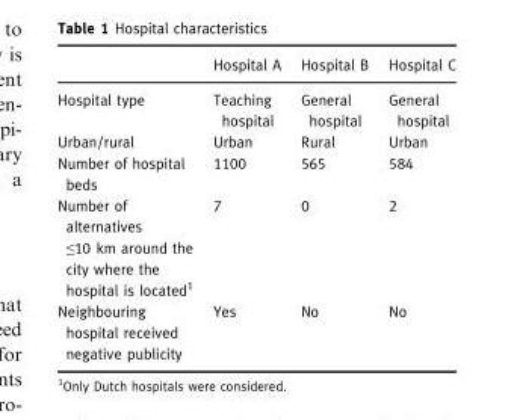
<table><thead><tr><td></td><td>Hospital A</td><td>Hospital B</td><td>Hospital C</td></tr></thead><tbody><tr><td>Hospital type</td><td>Teaching hospital</td><td>General hospital</td><td>General hospital</td></tr><tr><td>Urban/rural</td><td>Urban</td><td>Rural</td><td>Urban</td></tr><tr><td>Number of hospital beds</td><td>1100</td><td>565</td><td>584</td></tr><tr><td>Number of alternatives ≤10 km around the city where the hospital is located1</td><td>7</td><td>0</td><td>2</td></tr><tr><td>Neighbouring hospital received negative publicity</td><td>Yes</td><td>No</td><td>No</td></tr></tbody></table>